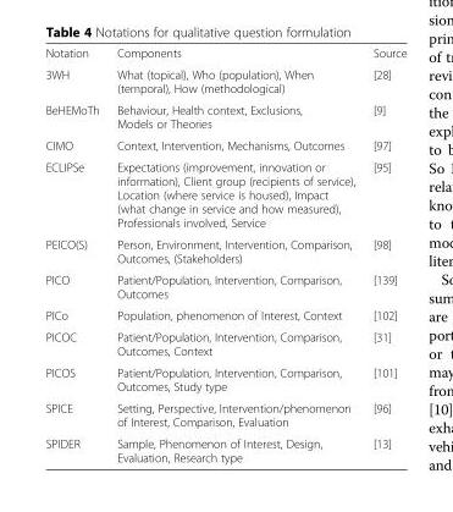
<table><tbody><tr><td>Notation</td><td>Components</td><td>Source</td></tr><tr><td>3WH</td><td>What (topical), Who (population), When (temporal), How (methodological)</td><td>[28]</td></tr><tr><td>BeHEMoTh</td><td>Behaviour, Health context, Exclusions, Models or Theories</td><td>[9]</td></tr><tr><td>CIMO</td><td>Context, Intervention, Mechanisms, Outcomes</td><td>[97]</td></tr><tr><td>ECLIPSe</td><td>Expectations (improvement, innovation or information), Client group (recipients of service), Location (where service is housed), Impact (what change in service and how measured), Professionals involved, Service</td><td>[95]</td></tr><tr><td>PEICO(S)</td><td>Person, Environment, Intervention, Comparison, Outcomes, (Stakeholders)</td><td>[98]</td></tr><tr><td>PICO</td><td>Patient/Population, Intervention, Comparison, Outcomes</td><td>[139]</td></tr><tr><td>PICo</td><td>Population, phenomenon of Interest, Context</td><td>[102]</td></tr><tr><td>PICOC</td><td>Patient/Population, Intervention, Comparison, Outcomes, Context</td><td>[31]</td></tr><tr><td>PICOS</td><td>Patient/Population, Intervention, Comparison, Outcomes, Study type</td><td>[101]</td></tr><tr><td>SPICE</td><td>Setting, Perspective, Intervention/phenomenon of Interest, Comparison, Evaluation</td><td>[96]</td></tr><tr><td>SPIDER</td><td>Sample, Phenomenon of Interest, Design, Evaluation, Research type</td><td>[13]</td></tr></tbody></table>